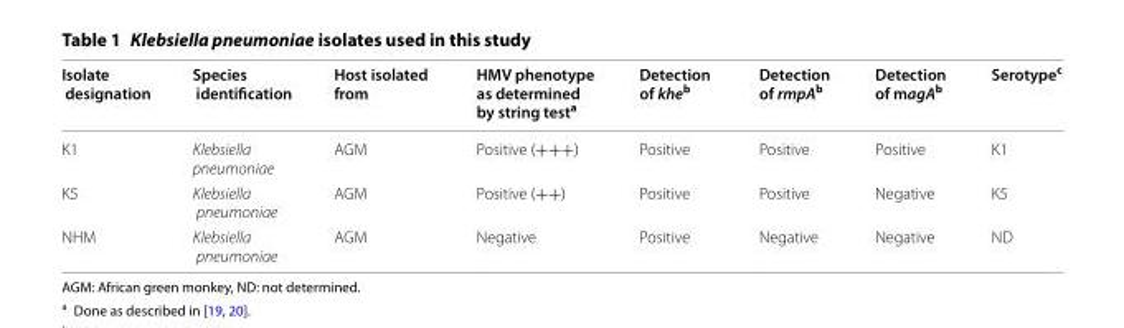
<table><thead><tr><td>Isolate designation</td><td>Species identification</td><td>Host isolated from</td><td>HMV phenotype as determined by string test<sup>a</sup></td><td>Detection of khe<sup>b</sup></td><td>Detection of rmpA<sup>b</sup></td><td>Detection of magA<sup>b</sup></td><td>Serotype<sup>c</sup></td></tr></thead><tbody><tr><td>K1</td><td>Klebsiella pneumoniae</td><td>AGM</td><td>Positive (+++)</td><td>Positive</td><td>Positive</td><td>Positive</td><td>K1</td></tr><tr><td>K5</td><td>Klebsiella pneumoniae</td><td>AGM</td><td>Positive (++)</td><td>Positive</td><td>Positive</td><td>Negative</td><td>K5</td></tr><tr><td>NHM</td><td>Klebsiella pneumoniae</td><td>AGM</td><td>Negative</td><td>Positive</td><td>Negative</td><td>Negative</td><td>ND</td></tr></tbody></table>